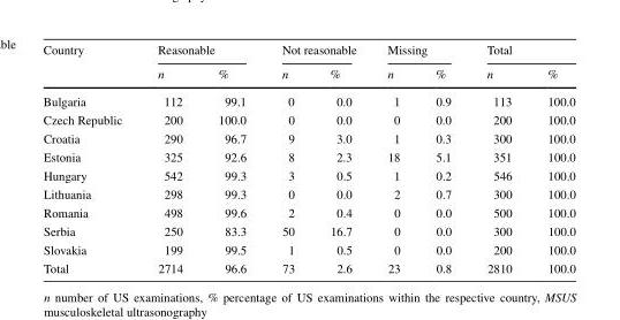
<table><thead><tr><td rowspan="2">Country</td><td colspan="2">Reasonable</td><td colspan="2">Not reasonable</td><td colspan="2">Missing</td><td colspan="2">Total</td></tr><tr><td>n</td><td>%</td><td>n</td><td>%</td><td>n</td><td>%</td><td>n</td><td>%</td></tr></thead><tbody><tr><td>Bulgaria</td><td>112</td><td>99.1</td><td>0</td><td>0.0</td><td>1</td><td>0.9</td><td>113</td><td>100.0</td></tr><tr><td>Czech Republic</td><td>200</td><td>100.0</td><td>0</td><td>0.0</td><td>0</td><td>0.0</td><td>200</td><td>100.0</td></tr><tr><td>Croatia</td><td>290</td><td>96.7</td><td>9</td><td>3.0</td><td>1</td><td>0.3</td><td>300</td><td>100.0</td></tr><tr><td>Estonia</td><td>325</td><td>92.6</td><td>8</td><td>2.3</td><td>18</td><td>5.1</td><td>351</td><td>100.0</td></tr><tr><td>Hungary</td><td>542</td><td>99.3</td><td>3</td><td>0.5</td><td>1</td><td>0.2</td><td>546</td><td>100.0</td></tr><tr><td>Lithuania</td><td>298</td><td>99.3</td><td>0</td><td>0.0</td><td>2</td><td>0.7</td><td>300</td><td>100.0</td></tr><tr><td>Romania</td><td>498</td><td>99.6</td><td>2</td><td>0.4</td><td>0</td><td>0.0</td><td>500</td><td>100.0</td></tr><tr><td>Serbia</td><td>250</td><td>83.3</td><td>50</td><td>16.7</td><td>0</td><td>0.0</td><td>300</td><td>100.0</td></tr><tr><td>Slovakia</td><td>199</td><td>99.5</td><td>1</td><td>0.5</td><td>0</td><td>0.0</td><td>200</td><td>100.0</td></tr><tr><td>Total</td><td>2714</td><td>96.6</td><td>73</td><td>2.6</td><td>23</td><td>0.8</td><td>2810</td><td>100.0</td></tr></tbody></table>